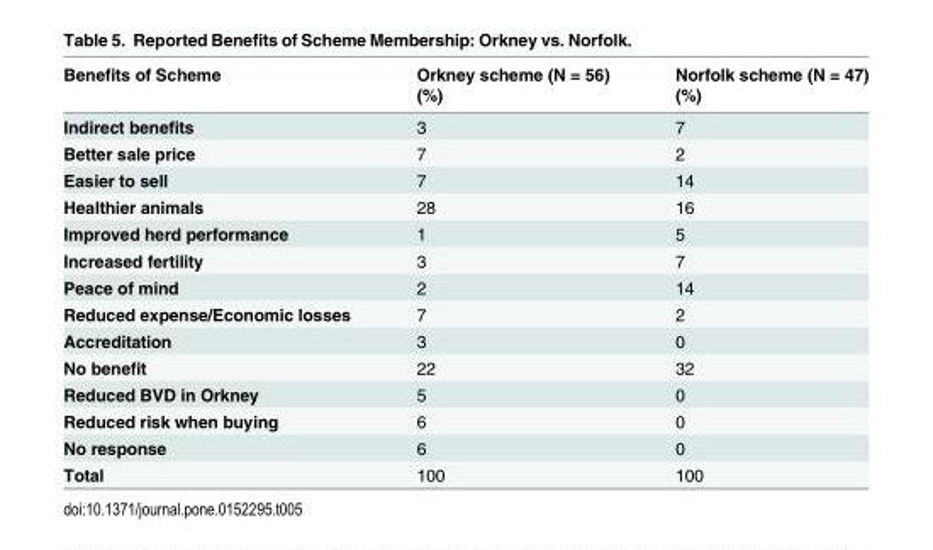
<table><thead><tr><td rowspan="2">Benefits of Scheme</td><td rowspan="2">Orkney scheme (N = 56) (%)</td><td rowspan="2">Norfolk scheme (N = 47) (%)</td></tr><tr></tr></thead><tbody><tr><td>Indirect benefits</td><td>3</td><td>7</td></tr><tr><td>Better sale price</td><td>7</td><td>2</td></tr><tr><td>Easier to sell</td><td>7</td><td>14</td></tr><tr><td>Healthier animals</td><td>28</td><td>16</td></tr><tr><td>Improved herd performance</td><td>1</td><td>5</td></tr><tr><td>Increased fertility</td><td>3</td><td>7</td></tr><tr><td>Peace of mind</td><td>2</td><td>14</td></tr><tr><td>Reduced expense/Economic losses</td><td>7</td><td>2</td></tr><tr><td>Accreditation</td><td>3</td><td>0</td></tr><tr><td>No benefit</td><td>22</td><td>32</td></tr><tr><td>Reduced BVD in Orkney</td><td>5</td><td>0</td></tr><tr><td>Reduced risk when buying</td><td>6</td><td>0</td></tr><tr><td>No response</td><td>6</td><td>0</td></tr><tr><td>Total</td><td>100</td><td>100</td></tr></tbody></table>